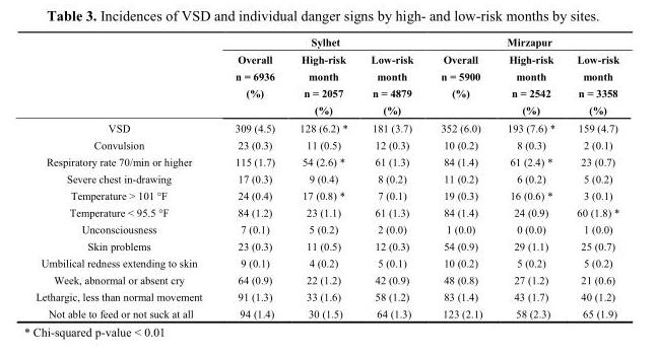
<table><thead><tr><td rowspan="2"></td><td colspan="3">Sylhet</td><td colspan="3">Mirzapur</td></tr><tr><td>Overall n = 6936 (%)</td><td>High-risk month n = 2057 (%)</td><td>Low-risk month n = 4879 (%)</td><td>Overall n = 5900 (%)</td><td>High-risk month n = 2542 (%)</td><td>Low-risk month n = 3358 (%)</td></tr></thead><tbody><tr><td>VSD</td><td>309 (4.5)</td><td>128 (6.2) *</td><td>181 (3.7)</td><td>352 (6.0)</td><td>193 (7.6) *</td><td>159 (4.7)</td></tr><tr><td>Convulsion</td><td>23 (0.3)</td><td>11 (0.5)</td><td>12 (0.3)</td><td>10 (0.2)</td><td>8 (0.3)</td><td>2 (0.1)</td></tr><tr><td>Respiratory rate 70/min or higher</td><td>115 (1.7)</td><td>54 (2.6) *</td><td>61 (1.3)</td><td>84 (1.4)</td><td>61 (2.4) *</td><td>23 (0.7)</td></tr><tr><td>Severe chest in-drawing</td><td>17 (0.3)</td><td>9 (0.4)</td><td>8 (0.2)</td><td>11 (0.2)</td><td>6 (0.2)</td><td>5 (0.2)</td></tr><tr><td>Temperature &gt; 101 °F</td><td>24 (0.4)</td><td>17 (0.8) *</td><td>7 (0.1)</td><td>19 (0.3)</td><td>16 (0.6) *</td><td>3 (0.1)</td></tr><tr><td>Temperature &lt; 95.5 °F</td><td>84 (1.2)</td><td>23 (1.1)</td><td>61 (1.3)</td><td>84 (1.4)</td><td>24 (0.9)</td><td>60 (1.8) *</td></tr><tr><td>Unconsciousness</td><td>7 (0.1)</td><td>5 (0.2)</td><td>2 (0.0)</td><td>1 (0.0)</td><td>0 (0.0)</td><td>1 (0.0)</td></tr><tr><td>Skin problems</td><td>23 (0.3)</td><td>11 (0.5)</td><td>12 (0.3)</td><td>54 (0.9)</td><td>29 (1.1)</td><td>25 (0.7)</td></tr><tr><td>Umbilical redness extending to skin</td><td>9 (0.1)</td><td>4 (0.2)</td><td>5 (0.1)</td><td>10 (0.2)</td><td>5 (0.2)</td><td>5 (0.2)</td></tr><tr><td>Week, abnormal or absent cry</td><td>64 (0.9)</td><td>22 (1.2)</td><td>42 (0.9)</td><td>48 (0.8)</td><td>27 (1.2)</td><td>21 (0.6)</td></tr><tr><td>Lethargic, less than normal movement</td><td>91 (1.3)</td><td>33 (1.6)</td><td>58 (1.2)</td><td>83 (1.4)</td><td>43 (1.7)</td><td>40 (1.2)</td></tr><tr><td>Not able to feed or not suck at all</td><td>94 (1.4)</td><td>30 (1.5)</td><td>64 (1.3)</td><td>123 (2.1)</td><td>58 (2.3)</td><td>65 (1.9)</td></tr></tbody></table>